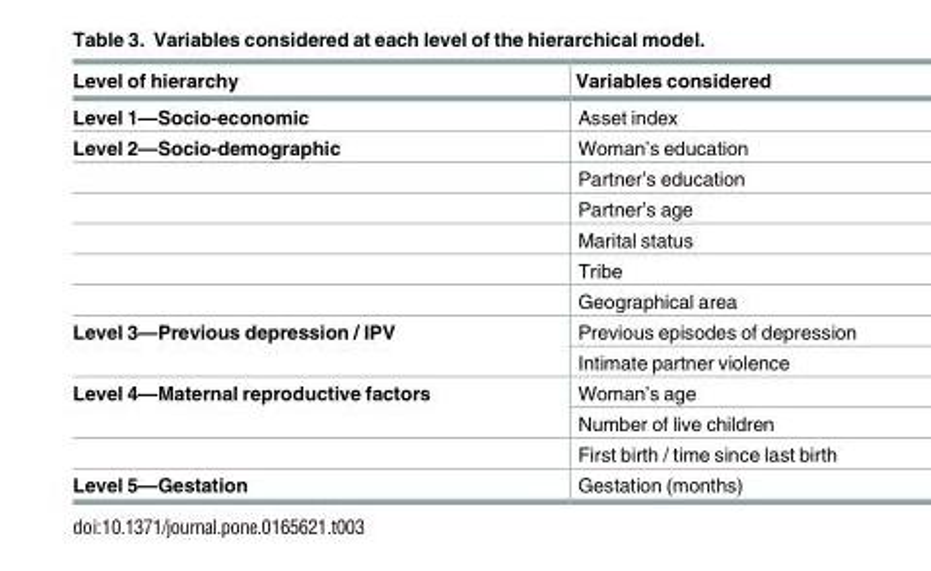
<table><thead><tr><td>Level of hierarchy</td><td>Variables considered</td></tr></thead><tbody><tr><td>Level 1—Socio-economic</td><td>Asset index</td></tr><tr><td rowspan="6">Level 2—Socio-demographic</td><td>Woman’s education</td></tr><tr><td>Partner’s education</td></tr><tr><td>Partner’s age</td></tr><tr><td>Marital status</td></tr><tr><td>Tribe</td></tr><tr><td>Geographical area</td></tr><tr><td rowspan="2">Level 3—Previous depression / IPV</td><td>Previous episodes of depression</td></tr><tr><td>Intimate partner violence</td></tr><tr><td rowspan="3">Level 4—Maternal reproductive factors</td><td>Woman’s age</td></tr><tr><td>Number of live children</td></tr><tr><td>First birth / time since last birth</td></tr><tr><td>Level 5—Gestation</td><td>Gestation (months)</td></tr></tbody></table>